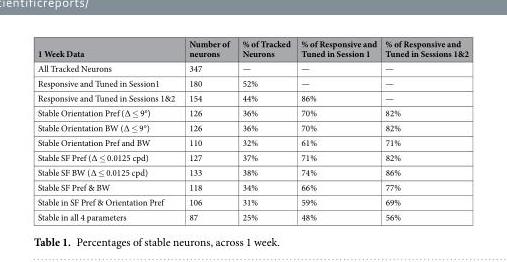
<table><thead><tr><td>1 Week Data</td><td>Number of neurons</td><td>% of Tracked Neurons</td><td>% of Responsive and Tuned in Session 1</td><td>% of Responsive and Tuned in Sessions 1&amp;2</td></tr></thead><tbody><tr><td>All Tracked Neurons</td><td>347</td><td>—</td><td>—</td><td>—</td></tr><tr><td>Responsive and Tuned in Session1</td><td>180</td><td>52%</td><td>—</td><td>—</td></tr><tr><td>Responsive and Tuned in Sessions 1&amp;2</td><td>154</td><td>44%</td><td>86%</td><td>—</td></tr><tr><td>Stable Orientation Pref (∆ ≤ 9°)</td><td>126</td><td>36%</td><td>70%</td><td>82%</td></tr><tr><td>Stable Orientation BW (∆ ≤ 9°)</td><td>126</td><td>36%</td><td>70%</td><td>82%</td></tr><tr><td>Stable Orientation Pref and BW</td><td>110</td><td>32%</td><td>61%</td><td>71%</td></tr><tr><td>Stable SF Pref (∆ ≤ 0.0125 cpd)</td><td>127</td><td>37%</td><td>71%</td><td>82%</td></tr><tr><td>Stable SF BW (∆ ≤ 0.0125 cpd)</td><td>133</td><td>38%</td><td>74%</td><td>86%</td></tr><tr><td>Stable SF Pref &amp; BW</td><td>118</td><td>34%</td><td>66%</td><td>77%</td></tr><tr><td>Stable in SF Pref &amp; Orientation Pref</td><td>106</td><td>31%</td><td>59%</td><td>69%</td></tr><tr><td>Stable in all 4 parameters</td><td>87</td><td>25%</td><td>48%</td><td>56%</td></tr></tbody></table>